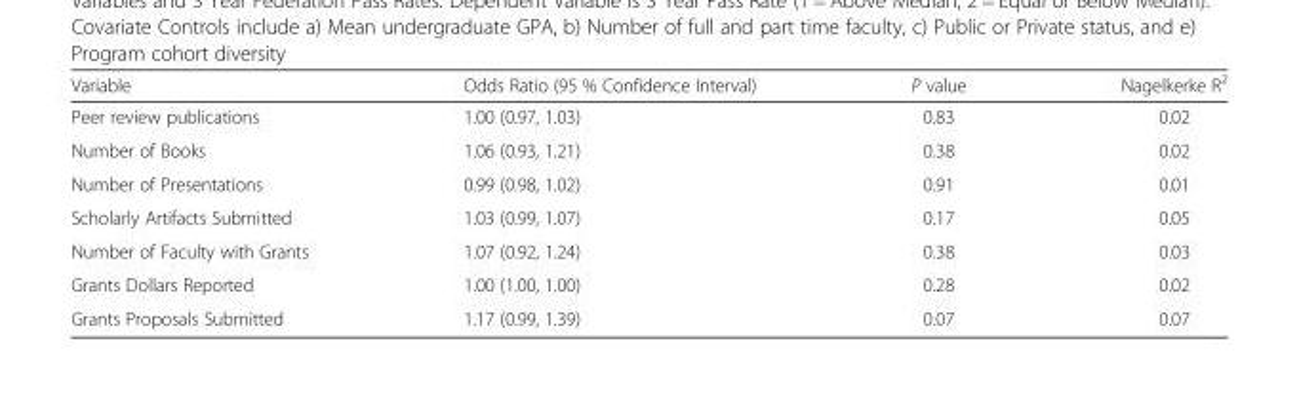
<table><thead><tr><td>Variable</td><td>Odds Ratio (95 % Confidence Interval)</td><td>P value</td><td>Nagelkerke R<sup>2</sup></td></tr></thead><tbody><tr><td>Peer review publications</td><td>1.00 (0.97, 1.03)</td><td>0.83</td><td>0.02</td></tr><tr><td>Number of Books</td><td>1.06 (0.93, 1.21)</td><td>0.38</td><td>0.02</td></tr><tr><td>Number of Presentations</td><td>0.99 (0.98, 1.02)</td><td>0.91</td><td>0.01</td></tr><tr><td>Scholarly Artifacts Submitted</td><td>1.03 (0.99, 1.07)</td><td>0.17</td><td>0.05</td></tr><tr><td>Number of Faculty with Grants</td><td>1.07 (0.92, 1.24)</td><td>0.38</td><td>0.03</td></tr><tr><td>Grants Dollars Reported</td><td>1.00 (1.00, 1.00)</td><td>0.28</td><td>0.02</td></tr><tr><td>Grants Proposals Submitted</td><td>1.17 (0.99, 1.39)</td><td>0.07</td><td>0.07</td></tr></tbody></table>